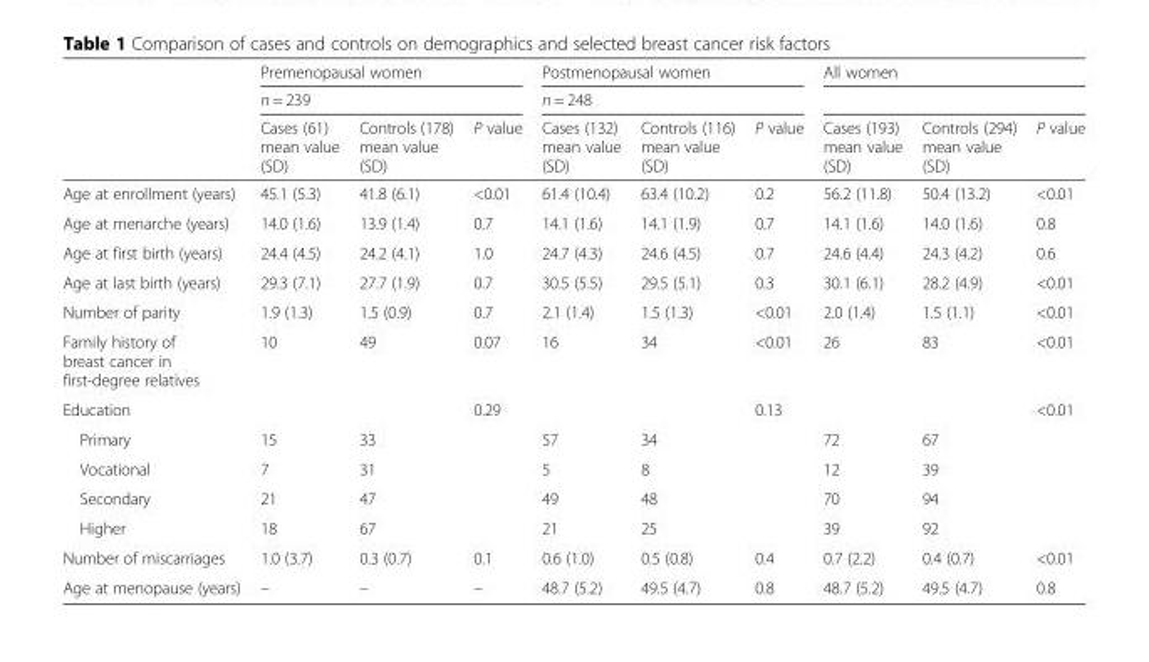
<table><thead><tr><td rowspan="3"></td><td rowspan="2" colspan="3">Premenopausal women n = 239</td><td rowspan="2" colspan="3">Postmenopausal women n = 248</td><td colspan="3">All women</td></tr><tr><td rowspan="2">Cases (193) mean value (SD)</td><td rowspan="2">Controls (294) mean value (SD)</td><td rowspan="2">P value</td></tr><tr><td>Cases (61) mean value (SD)</td><td>Controls (178) mean value (SD)</td><td>P value</td><td>Cases (132) mean value (SD)</td><td>Controls (116) mean value (SD)</td><td>P value</td></tr></thead><tbody><tr><td>Age at enrollment (years)</td><td>45.1 (5.3)</td><td>41.8 (6.1)</td><td>&lt;0.01</td><td>61.4 (10.4)</td><td>63.4 (10.2)</td><td>0.2</td><td>56.2 (11.8)</td><td>50.4 (13.2)</td><td>&lt;0.01</td></tr><tr><td>Age at menarche (years)</td><td>14.0 (1.6)</td><td>13.9 (1.4)</td><td>0.7</td><td>14.1 (1.6)</td><td>14.1 (1.9)</td><td>0.7</td><td>14.1 (1.6)</td><td>14.0 (1.6)</td><td>0.8</td></tr><tr><td>Age at first birth (years)</td><td>24.4 (4.5)</td><td>24.2 (4.1)</td><td>1.0</td><td>24.7 (4.3)</td><td>24.6 (4.5)</td><td>0.7</td><td>24.6 (4.4)</td><td>24.3 (4.2)</td><td>0.6</td></tr><tr><td>Age at last birth (years)</td><td>29.3 (7.1)</td><td>27.7 (1.9)</td><td>0.7</td><td>30.5 (5.5)</td><td>29.5 (5.1)</td><td>0.3</td><td>30.1 (6.1)</td><td>28.2 (4.9)</td><td>&lt;0.01</td></tr><tr><td>Number of parity</td><td>1.9 (1.3)</td><td>1.5 (0.9)</td><td>0.7</td><td>2.1 (1.4)</td><td>1.5 (1.3)</td><td>&lt;0.01</td><td>2.0 (1.4)</td><td>1.5 (1.1)</td><td>&lt;0.01</td></tr><tr><td>Family history of breast cancer in first-degree relatives</td><td>10</td><td>49</td><td>0.07</td><td>16</td><td>34</td><td>&lt;0.01</td><td>26</td><td>83</td><td>&lt;0.01</td></tr><tr><td>Education</td><td></td><td></td><td>0.29</td><td></td><td></td><td>0.13</td><td></td><td></td><td>&lt;0.01</td></tr><tr><td>Primary</td><td>15</td><td>33</td><td></td><td>57</td><td>34</td><td></td><td>72</td><td>67</td><td></td></tr><tr><td>Vocational</td><td>7</td><td>31</td><td></td><td>5</td><td>8</td><td></td><td>12</td><td>39</td><td></td></tr><tr><td>Secondary</td><td>21</td><td>47</td><td></td><td>49</td><td>48</td><td></td><td>70</td><td>94</td><td></td></tr><tr><td>Higher</td><td>18</td><td>67</td><td></td><td>21</td><td>25</td><td></td><td>39</td><td>92</td><td></td></tr><tr><td>Number of miscarriages</td><td>1.0 (3.7)</td><td>0.3 (0.7)</td><td>0.1</td><td>0.6 (1.0)</td><td>0.5 (0.8)</td><td>0.4</td><td>0.7 (2.2)</td><td>0.4 (0.7)</td><td>&lt;0.01</td></tr><tr><td>Age at menopause (years)</td><td>–</td><td>–</td><td>–</td><td>48.7 (5.2)</td><td>49.5 (4.7)</td><td>0.8</td><td>48.7 (5.2)</td><td>49.5 (4.7)</td><td>0.8</td></tr></tbody></table>